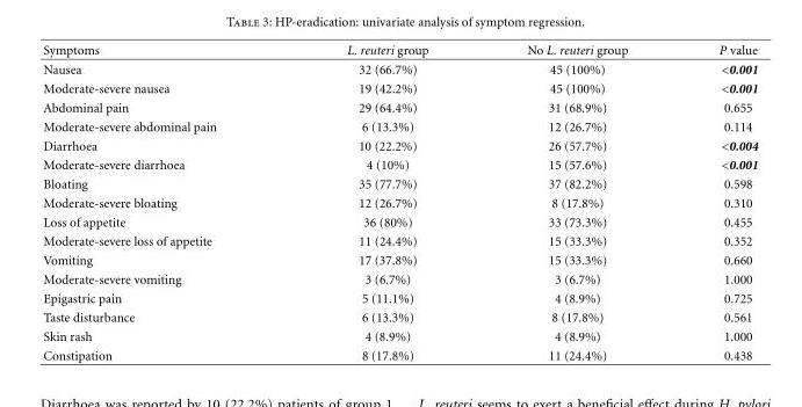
<table><thead><tr><td>Symptoms</td><td>L. reuteri group</td><td>No L. reuteri group</td><td>P value</td></tr></thead><tbody><tr><td>Nausea</td><td>32 (66.7%)</td><td>45 (100%)</td><td>&lt;0.001</td></tr><tr><td>Moderate-severe nausea</td><td>19 (42.2%)</td><td>45 (100%)</td><td>&lt;0.001</td></tr><tr><td>Abdominal pain</td><td>29 (64.4%)</td><td>31 (68.9%)</td><td>0.655</td></tr><tr><td>Moderate-severe abdominal pain</td><td>6 (13.3%)</td><td>12 (26.7%)</td><td>0.114</td></tr><tr><td>Diarrhoea</td><td>10 (22.2%)</td><td>26 (57.7%)</td><td>&lt;0.004</td></tr><tr><td>Moderate-severe diarrhoea</td><td>4 (10%)</td><td>15 (57.6%)</td><td>&lt;0.001</td></tr><tr><td>Bloating</td><td>35 (77.7%)</td><td>37 (82.2%)</td><td>0.598</td></tr><tr><td>Moderate-severe bloating</td><td>12 (26.7%)</td><td>8 (17.8%)</td><td>0.310</td></tr><tr><td>Loss of appetite</td><td>36 (80%)</td><td>33 (73.3%)</td><td>0.455</td></tr><tr><td>Moderate-severe loss of appetite</td><td>11 (24.4%)</td><td>15 (33.3%)</td><td>0.352</td></tr><tr><td>Vomiting</td><td>17 (37.8%)</td><td>15 (33.3%)</td><td>0.660</td></tr><tr><td>Moderate-severe vomiting</td><td>3 (6.7%)</td><td>3 (6.7%)</td><td>1.000</td></tr><tr><td>Epigastric pain</td><td>5 (11.1%)</td><td>4 (8.9%)</td><td>0.725</td></tr><tr><td>Taste disturbance</td><td>6 (13.3%)</td><td>8 (17.8%)</td><td>0.561</td></tr><tr><td>Skin rash</td><td>4 (8.9%)</td><td>4 (8.9%)</td><td>1.000</td></tr><tr><td>Constipation</td><td>8 (17.8%)</td><td>11 (24.4%)</td><td>0.438</td></tr></tbody></table>